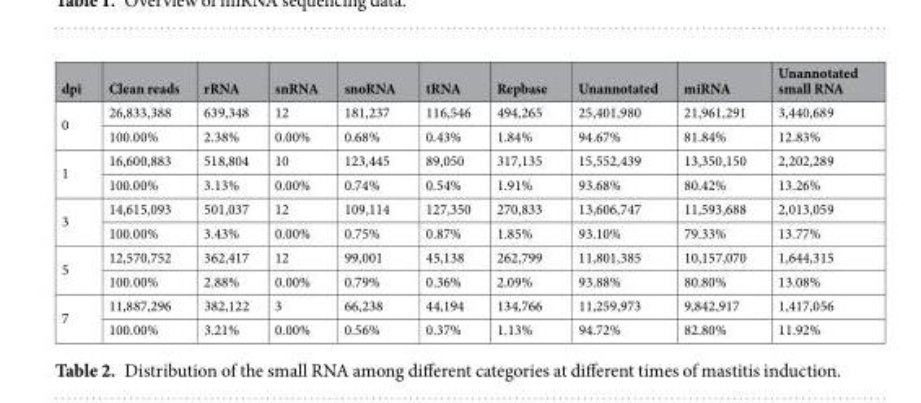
<table><thead><tr><td>dpi</td><td>Clean reads</td><td>rRNA</td><td>snRNA</td><td>snoRNA</td><td>tRNA</td><td>Repbase</td><td>Unannotated</td><td>miRNA</td><td>Unannotated small RNA</td></tr></thead><tbody><tr><td rowspan="2">0</td><td>26,833,388</td><td>639,348</td><td>12</td><td>181,237</td><td>116,546</td><td>494,265</td><td>25,401,980</td><td>21,961,291</td><td>3,440,689</td></tr><tr><td>100.00%</td><td>2.38%</td><td>0.00%</td><td>0.68%</td><td>0.43%</td><td>1.84%</td><td>94.67%</td><td>81.84%</td><td>12.83%</td></tr><tr><td rowspan="2">1</td><td>16,600,883</td><td>518,804</td><td>10</td><td>123,445</td><td>89,050</td><td>317,135</td><td>15,552,439</td><td>13,350,150</td><td>2,202,289</td></tr><tr><td>100.00%</td><td>3.13%</td><td>0.00%</td><td>0.74%</td><td>0.54%</td><td>1.91%</td><td>93.68%</td><td>80.42%</td><td>13.26%</td></tr><tr><td rowspan="2">3</td><td>14,615,093</td><td>501,037</td><td>12</td><td>109,114</td><td>127,350</td><td>270,833</td><td>13,606,747</td><td>11,593,688</td><td>2,013,059</td></tr><tr><td>100.00%</td><td>3.43%</td><td>0.00%</td><td>0.75%</td><td>0.87%</td><td>1.85%</td><td>93.10%</td><td>79.33%</td><td>13.77%</td></tr><tr><td rowspan="2">5</td><td>12,570,752</td><td>362,417</td><td>12</td><td>99,001</td><td>45,138</td><td>262,799</td><td>11,801,385</td><td>10,157,070</td><td>1,644,315</td></tr><tr><td>100.00%</td><td>2.88%</td><td>0.00%</td><td>0.79%</td><td>0.36%</td><td>2.09%</td><td>93.88%</td><td>80.80%</td><td>13.08%</td></tr><tr><td rowspan="2">7</td><td>11,887,296</td><td>382,122</td><td>3</td><td>66,238</td><td>44,194</td><td>134,766</td><td>11,259,973</td><td>9,842,917</td><td>1,417,056</td></tr><tr><td>100.00%</td><td>3.21%</td><td>0.00%</td><td>0.56%</td><td>0.37%</td><td>1.13%</td><td>94.72%</td><td>82.80%</td><td>11.92%</td></tr></tbody></table>